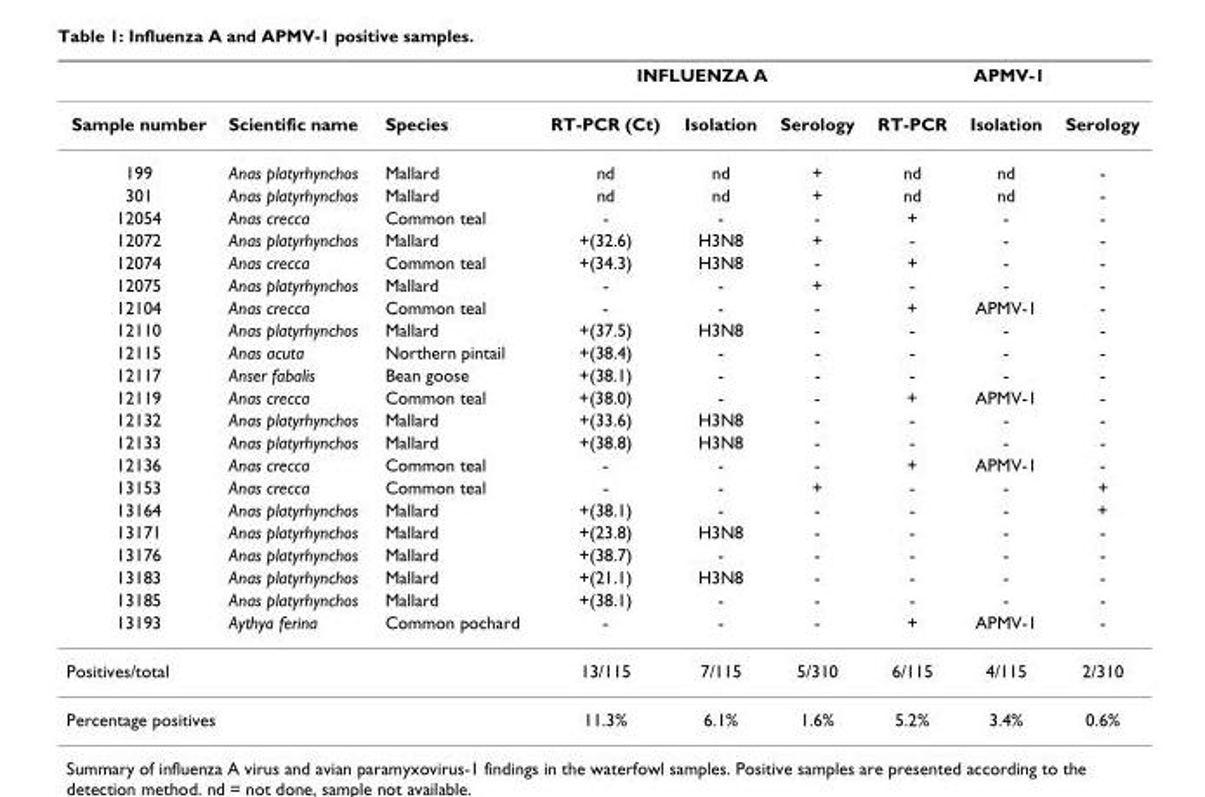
<table><thead><tr><td rowspan="2">Sample number</td><td rowspan="2">Scientific name</td><td rowspan="2">Species</td><td colspan="3">INFLUENZA A</td><td colspan="3">APMV-1</td></tr><tr><td>RT-PCR (Ct)</td><td>Isolation</td><td>Serology</td><td>RT-PCR</td><td>Isolation</td><td>Serology</td></tr></thead><tbody><tr><td>199</td><td>Anas platyrhynchos</td><td>Mallard</td><td>nd</td><td>nd</td><td>+</td><td>nd</td><td>nd</td><td>-</td></tr><tr><td>301</td><td>Anas platyrhynchos</td><td>Mallard</td><td>nd</td><td>nd</td><td>+</td><td>nd</td><td>nd</td><td>-</td></tr><tr><td>12054</td><td>Anas crecca</td><td>Common teal</td><td>-</td><td>-</td><td>-</td><td>+</td><td>-</td><td>-</td></tr><tr><td>12072</td><td>Anas platyrhynchos</td><td>Mallard</td><td>+(32.6)</td><td>H3N8</td><td>+</td><td>-</td><td>-</td><td>-</td></tr><tr><td>12074</td><td>Anas crecca</td><td>Common teal</td><td>+(34.3)</td><td>H3N8</td><td>-</td><td>+</td><td>-</td><td>-</td></tr><tr><td>12075</td><td>Anas platyrhynchos</td><td>Mallard</td><td>-</td><td>-</td><td>+</td><td>-</td><td>-</td><td>-</td></tr><tr><td>12104</td><td>Anas crecca</td><td>Common teal</td><td>-</td><td>-</td><td>-</td><td>+</td><td>APMV-1</td><td>-</td></tr><tr><td>12110</td><td>Anas platyrhynchos</td><td>Mallard</td><td>+(37.5)</td><td>H3N8</td><td>-</td><td>-</td><td>-</td><td>-</td></tr><tr><td>12115</td><td>Anas acuta</td><td>Northern pintail</td><td>+(38.4)</td><td>-</td><td>-</td><td>-</td><td>-</td><td>-</td></tr><tr><td>12117</td><td>Anser fabalis</td><td>Bean goose</td><td>+(38.1)</td><td>-</td><td>-</td><td>-</td><td>-</td><td>-</td></tr><tr><td>12119</td><td>Anas crecca</td><td>Common teal</td><td>+(38.0)</td><td>-</td><td>-</td><td>+</td><td>APMV-1</td><td>-</td></tr><tr><td>12132</td><td>Anas platyrhynchos</td><td>Mallard</td><td>+(33.6)</td><td>H3N8</td><td>-</td><td>-</td><td>-</td><td>-</td></tr><tr><td>12133</td><td>Anas platyrhynchos</td><td>Mallard</td><td>+(38.8)</td><td>H3N8</td><td>-</td><td>-</td><td>-</td><td>-</td></tr><tr><td>12136</td><td>Anas crecca</td><td>Common teal</td><td>-</td><td>-</td><td>-</td><td>+</td><td>APMV-1</td><td>-</td></tr><tr><td>13153</td><td>Anas crecca</td><td>Common teal</td><td>-</td><td>-</td><td>+</td><td>-</td><td>-</td><td>+</td></tr><tr><td>13164</td><td>Anas platyrhynchos</td><td>Mallard</td><td>+(38.1)</td><td>-</td><td>-</td><td>-</td><td>-</td><td>+</td></tr><tr><td>13171</td><td>Anas platyrhynchos</td><td>Mallard</td><td>+(23.8)</td><td>H3N8</td><td>-</td><td>-</td><td>-</td><td>-</td></tr><tr><td>13176</td><td>Anas platyrhynchos</td><td>Mallard</td><td>+(38.7)</td><td>-</td><td>-</td><td>-</td><td>-</td><td>-</td></tr><tr><td>13183</td><td>Anas platyrhynchos</td><td>Mallard</td><td>+(21.1)</td><td>H3N8</td><td>-</td><td>-</td><td>-</td><td>-</td></tr><tr><td>13185</td><td>Anas platyrhynchos</td><td>Mallard</td><td>+(38.1)</td><td>-</td><td>-</td><td>-</td><td>-</td><td>-</td></tr><tr><td>13193</td><td>Aythya ferina</td><td>Common pochard</td><td>-</td><td>-</td><td>-</td><td>+</td><td>APMV-1</td><td>-</td></tr><tr><td colspan="3">Positives/total</td><td>13/115</td><td>7/115</td><td>5/310</td><td>6/115</td><td>4/115</td><td>2/310</td></tr><tr><td colspan="3">Percentage positives</td><td>11.3%</td><td>6.1%</td><td>1.6%</td><td>5.2%</td><td>3.4%</td><td>0.6%</td></tr></tbody></table>